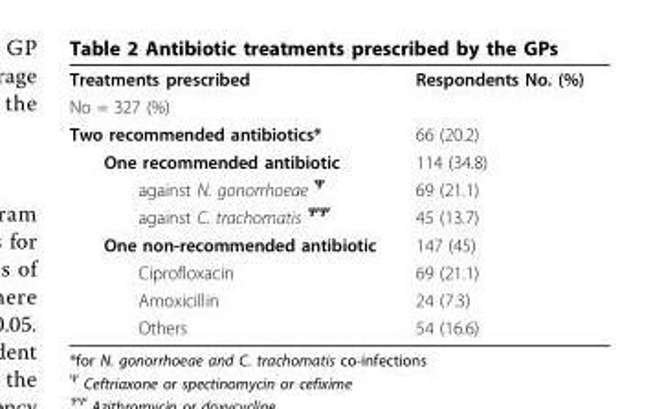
<table><tbody><tr><td>Treatments prescribed</td><td>Respondents No. (%)</td></tr><tr><td colspan="2">No = 327 (%)</td></tr><tr><td>Two recommended antibiotics*</td><td>66 (20.2)</td></tr><tr><td>One recommended antibiotic</td><td>114 (34.8)</td></tr><tr><td>against N. gonorrhoeae <sup>Ψ</sup></td><td>69 (21.1)</td></tr><tr><td>against C. trachomatis <sup>ΨΨ</sup></td><td>45 (13.7)</td></tr><tr><td>One non-recommended antibiotic</td><td>147 (45)</td></tr><tr><td>Ciprofloxacin</td><td>69 (21.1)</td></tr><tr><td>Amoxicillin</td><td>24 (7.3)</td></tr><tr><td>Others</td><td>54 (16.6)</td></tr></tbody></table>